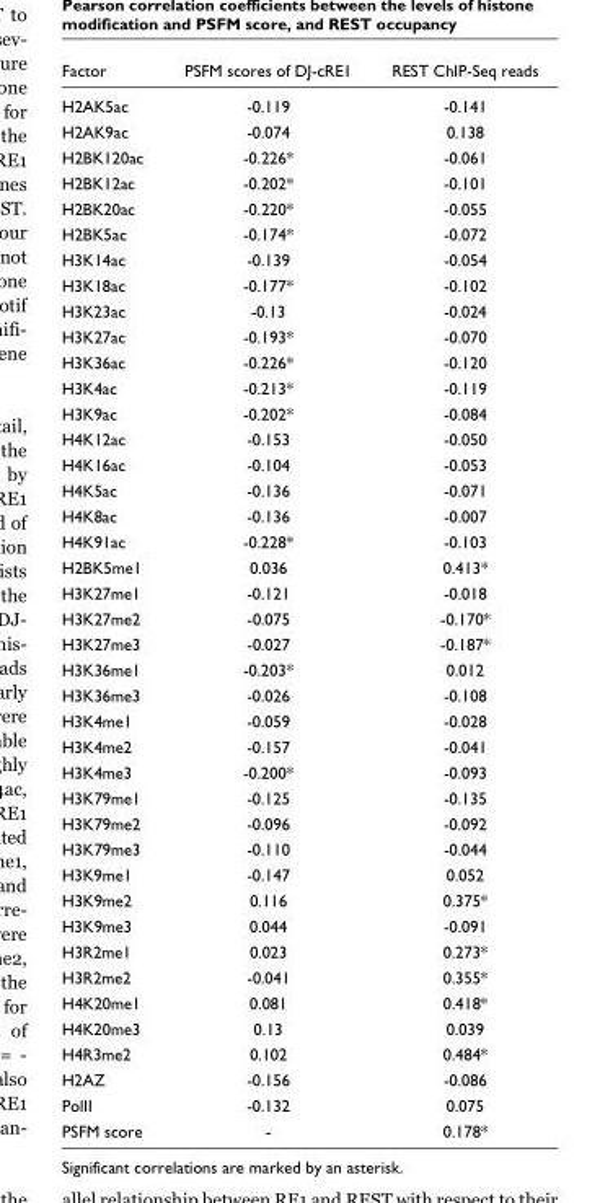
<table><thead><tr><td>Factor</td><td>PSFM scores of DJ-cRE1</td><td>REST ChIP-Seq reads</td></tr></thead><tbody><tr><td>H2AK5ac</td><td>-0.119</td><td>-0.141</td></tr><tr><td>H2AK9ac</td><td>-0.074</td><td>0.138</td></tr><tr><td>H2BK120ac</td><td>-0.226*</td><td>-0.061</td></tr><tr><td>H2BK12ac</td><td>-0.202*</td><td>-0.101</td></tr><tr><td>H2BK20ac</td><td>-0.220*</td><td>-0.055</td></tr><tr><td>H2BK5ac</td><td>-0.174*</td><td>-0.072</td></tr><tr><td>H3K14ac</td><td>-0.139</td><td>-0.054</td></tr><tr><td>H3K18ac</td><td>-0.177*</td><td>-0.102</td></tr><tr><td>H3K23ac</td><td>-0.13</td><td>-0.024</td></tr><tr><td>H3K27ac</td><td>-0.193*</td><td>-0.070</td></tr><tr><td>H3K36ac</td><td>-0.226*</td><td>-0.120</td></tr><tr><td>H3K4ac</td><td>-0.213*</td><td>-0.119</td></tr><tr><td>H3K9ac</td><td>-0.202*</td><td>-0.084</td></tr><tr><td>H4K12ac</td><td>-0.153</td><td>-0.050</td></tr><tr><td>H4K16ac</td><td>-0.104</td><td>-0.053</td></tr><tr><td>H4K5ac</td><td>-0.136</td><td>-0.071</td></tr><tr><td>H4K8ac</td><td>-0.136</td><td>-0.007</td></tr><tr><td>H4K91ac</td><td>-0.228*</td><td>-0.103</td></tr><tr><td>H2BK5me1</td><td>0.036</td><td>0.413*</td></tr><tr><td>H3K27me1</td><td>-0.121</td><td>-0.018</td></tr><tr><td>H3K27me2</td><td>-0.075</td><td>-0.170*</td></tr><tr><td>H3K27me3</td><td>-0.027</td><td>-0.187*</td></tr><tr><td>H3K36me1</td><td>-0.203*</td><td>0.012</td></tr><tr><td>H3K36me3</td><td>-0.026</td><td>-0.108</td></tr><tr><td>H3K4me1</td><td>-0.059</td><td>-0.028</td></tr><tr><td>H3K4me2</td><td>-0.157</td><td>-0.041</td></tr><tr><td>H3K4me3</td><td>-0.200*</td><td>-0.093</td></tr><tr><td>H3K79me1</td><td>-0.125</td><td>-0.135</td></tr><tr><td>H3K79me2</td><td>-0.096</td><td>-0.092</td></tr><tr><td>H3K79me3</td><td>-0.110</td><td>-0.044</td></tr><tr><td>H3K9me1</td><td>-0.147</td><td>0.052</td></tr><tr><td>H3K9me2</td><td>0.116</td><td>0.375*</td></tr><tr><td>H3K9me3</td><td>0.044</td><td>-0.091</td></tr><tr><td>H3R2me1</td><td>0.023</td><td>0.273*</td></tr><tr><td>H3R2me2</td><td>-0.041</td><td>0.355*</td></tr><tr><td>H4K20me1</td><td>0.081</td><td>0.418*</td></tr><tr><td>H4K20me3</td><td>0.13</td><td>0.039</td></tr><tr><td>H4R3me2</td><td>0.102</td><td>0.484*</td></tr><tr><td>H2AZ</td><td>-0.156</td><td>-0.086</td></tr><tr><td>PolII</td><td>-0.132</td><td>0.075</td></tr><tr><td>PSFM score</td><td>-</td><td>0.178*</td></tr></tbody></table>